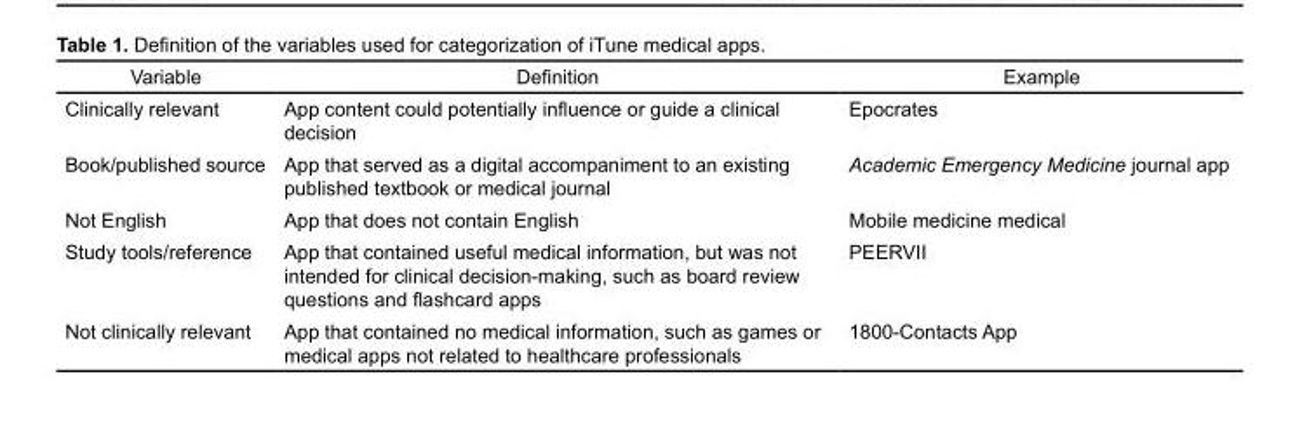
<table><thead><tr><td>Variable</td><td>Definition</td><td>Example</td></tr></thead><tbody><tr><td>Clinically relevant</td><td>App content could potentially influence or guide a clinical decision</td><td>Epocrates</td></tr><tr><td>Book/published source</td><td>App that served as a digital accompaniment to an existing published textbook or medical journal</td><td>Academic Emergency Medicine journal app</td></tr><tr><td>Not English</td><td>App that does not contain English</td><td>Mobile medicine medical</td></tr><tr><td>Study tools/reference</td><td>App that contained useful medical information, but was not intended for clinical decision-making, such as board review questions and flashcard apps</td><td>PEERVII</td></tr><tr><td>Not clinically relevant</td><td>App that contained no medical information, such as games or medical apps not related to healthcare professionals</td><td>1800-Contacts App</td></tr></tbody></table>